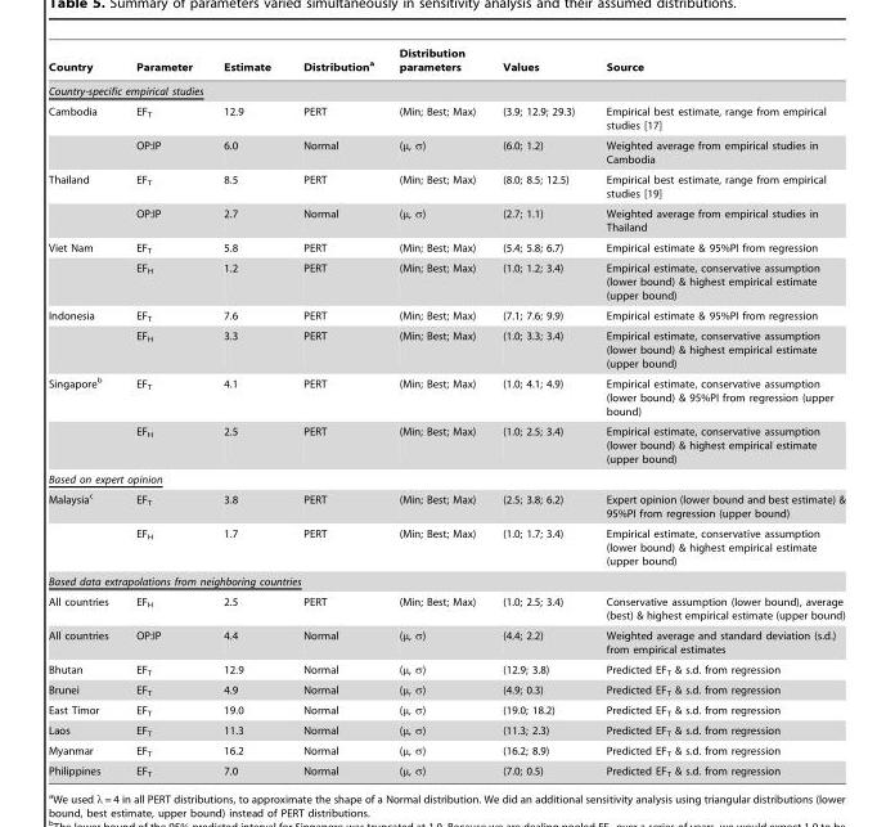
<table><thead><tr><td>Country</td><td>Parameter</td><td>Estimate</td><td>Distribution<sup>a</sup></td><td>Distribution parameters</td><td>Values</td><td>Source</td></tr></thead><tbody><tr><td colspan="7">Country-specific empirical studies</td></tr><tr><td rowspan="2">Cambodia</td><td>EF<sub>T</sub></td><td>12.9</td><td>PERT</td><td>(Min; Best; Max)</td><td>(3.9; 12.9; 29.3)</td><td>Empirical best estimate, range from empirical studies [17]</td></tr><tr><td>OP:IP</td><td>6.0</td><td>Normal</td><td>(μ, σ)</td><td>(6.0; 1.2)</td><td>Weighted average from empirical studies in Cambodia</td></tr><tr><td rowspan="2">Thailand</td><td>EF<sub>T</sub></td><td>8.5</td><td>PERT</td><td>(Min; Best; Max)</td><td>(8.0; 8.5; 12.5)</td><td>Empirical best estimate, range from empirical studies [19]</td></tr><tr><td>OP:IP</td><td>2.7</td><td>Normal</td><td>(μ, σ)</td><td>(2.7; 1.1)</td><td>Weighted average from empirical studies in Thailand</td></tr><tr><td rowspan="2">Viet Nam</td><td>EF<sub>T</sub></td><td>5.8</td><td>PERT</td><td>(Min; Best; Max)</td><td>(5.4; 5.8; 6.7)</td><td>Empirical estimate &amp; 95%PI from regression</td></tr><tr><td>EF<sub>H</sub></td><td>1.2</td><td>PERT</td><td>(Min; Best; Max)</td><td>(1.0; 1.2; 3.4)</td><td>Empirical estimate, conservative assumption (lower bound) &amp; highest empirical estimate (upper bound)</td></tr><tr><td rowspan="2">Indonesia</td><td>EF<sub>T</sub></td><td>7.6</td><td>PERT</td><td>(Min; Best; Max)</td><td>(7.1; 7.6; 9.9)</td><td>Empirical estimate &amp; 95%PI from regression</td></tr><tr><td>EF<sub>H</sub></td><td>3.3</td><td>PERT</td><td>(Min; Best; Max)</td><td>(1.0; 3.3; 3.4)</td><td>Empirical estimate, conservative assumption (lower bound) &amp; highest empirical estimate (upper bound)</td></tr><tr><td rowspan="2">Singapore<sup>b</sup></td><td>EF<sub>T</sub></td><td>4.1</td><td>PERT</td><td>(Min; Best; Max)</td><td>(1.0; 4.1; 4.9)</td><td>Empirical estimate, conservative assumption (lower bound) &amp; 95%PI from regression (upper bound)</td></tr><tr><td>EF<sub>H</sub></td><td>2.5</td><td>PERT</td><td>(Min; Best; Max)</td><td>(1.0; 2.5; 3.4)</td><td>Empirical estimate, conservative assumption (lower bound) &amp; highest empirical estimate (upper bound)</td></tr><tr><td colspan="7">Based on expert opinion</td></tr><tr><td rowspan="2">Malaysia<sup>c</sup></td><td>EF<sub>T</sub></td><td>3.8</td><td>PERT</td><td>(Min; Best; Max)</td><td>(2.5; 3.8; 6.2)</td><td>Expert opinion (lower bound and best estimate) &amp; 95%PI from regression (upper bound)</td></tr><tr><td>EF<sub>H</sub></td><td>1.7</td><td>PERT</td><td>(Min; Best; Max)</td><td>(1.0; 1.7; 3.4)</td><td>Empirical estimate, conservative assumption (lower bound) &amp; highest empirical estimate (upper bound)</td></tr><tr><td colspan="7">Based data extrapolations from neighboring countries</td></tr><tr><td>All countries</td><td>EF<sub>H</sub></td><td>2.5</td><td>PERT</td><td>(Min; Best; Max)</td><td>(1.0; 2.5; 3.4)</td><td>Conservative assumption (lower bound), average (best) &amp; highest empirical estimate (upper bound)</td></tr><tr><td>All countries</td><td>OP:IP</td><td>4.4</td><td>Normal</td><td>(μ, σ)</td><td>(4.4; 2.2)</td><td>Weighted average and standard deviation (s.d.) from empirical estimates</td></tr><tr><td>Bhutan</td><td>EF<sub>T</sub></td><td>12.9</td><td>Normal</td><td>(μ, σ)</td><td>(12.9; 3.8)</td><td>Predicted EF<sub>T</sub> &amp; s.d. from regression</td></tr><tr><td>Brunei</td><td>EF<sub>T</sub></td><td>4.9</td><td>Normal</td><td>(μ, σ)</td><td>(4.9; 0.3)</td><td>Predicted EF<sub>T</sub> &amp; s.d. from regression</td></tr><tr><td>East Timor</td><td>EF<sub>T</sub></td><td>19.0</td><td>Normal</td><td>(μ, σ)</td><td>(19.0; 18.2)</td><td>Predicted EF<sub>T</sub> &amp; s.d. from regression</td></tr><tr><td>Laos</td><td>EF<sub>T</sub></td><td>11.3</td><td>Normal</td><td>(μ, σ)</td><td>(11.3; 2.3)</td><td>Predicted EF<sub>T</sub> &amp; s.d. from regression</td></tr><tr><td>Myanmar</td><td>EF<sub>T</sub></td><td>16.2</td><td>Normal</td><td>(μ, σ)</td><td>(16.2; 8.9)</td><td>Predicted EF<sub>T</sub> &amp; s.d. from regression</td></tr><tr><td>Philippines</td><td>EF<sub>T</sub></td><td>7.0</td><td>Normal</td><td>(μ, σ)</td><td>(7.0; 0.5)</td><td>Predicted EF<sub>T</sub> &amp; s.d. from regression</td></tr></tbody></table>